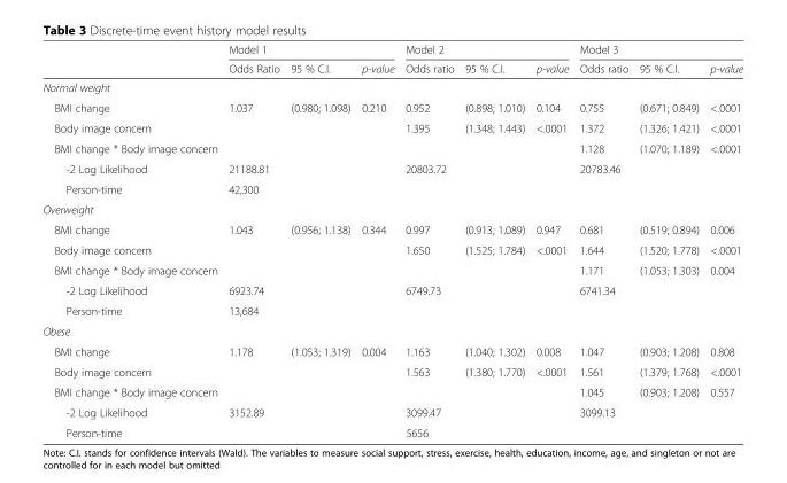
<table><thead><tr><td rowspan="2"></td><td colspan="3">Model 1</td><td colspan="3">Model 2</td><td colspan="3">Model 3</td></tr><tr><td>Odds Ratio</td><td>95 % C.I.</td><td>p-value</td><td>Odds ratio</td><td>95 % C.I.</td><td>p-value</td><td>Odds ratio</td><td>95 % C.I.</td><td>p-value</td></tr></thead><tbody><tr><td colspan="10">Normal weight</td></tr><tr><td>BMI change</td><td>1.037</td><td>(0.980; 1.098)</td><td>0.210</td><td>0.952</td><td>(0.898; 1.010)</td><td>0.104</td><td>0.755</td><td>(0.671; 0.849)</td><td>&lt;.0001</td></tr><tr><td>Body image concern</td><td></td><td></td><td></td><td>1.395</td><td>(1.348; 1.443)</td><td>&lt;.0001</td><td>1.372</td><td>(1.326; 1.421)</td><td>&lt;.0001</td></tr><tr><td>BMI change * Body image concern</td><td></td><td></td><td></td><td></td><td></td><td></td><td>1.128</td><td>(1.070; 1.189)</td><td>&lt;.0001</td></tr><tr><td>-2 Log Likelihood</td><td colspan="3">21188.81</td><td colspan="3">20803.72</td><td colspan="3">20783.46</td></tr><tr><td>Person-time</td><td colspan="9">42,300</td></tr><tr><td colspan="10">Overweight</td></tr><tr><td>BMI change</td><td>1.043</td><td>(0.956; 1.138)</td><td>0.344</td><td>0.997</td><td>(0.913; 1.089)</td><td>0.947</td><td>0.681</td><td>(0.519; 0.894)</td><td>0.006</td></tr><tr><td>Body image concern</td><td></td><td></td><td></td><td>1.650</td><td>(1.525; 1.784)</td><td>&lt;.0001</td><td>1.644</td><td>(1.520; 1.778)</td><td>&lt;.0001</td></tr><tr><td>BMI change * Body image concern</td><td></td><td></td><td></td><td></td><td></td><td></td><td>1.171</td><td>(1.053; 1.303)</td><td>0.004</td></tr><tr><td>-2 Log Likelihood</td><td colspan="3">6923.74</td><td colspan="3">6749.73</td><td colspan="3">6741.34</td></tr><tr><td>Person-time</td><td colspan="9">13,684</td></tr><tr><td colspan="10">Obese</td></tr><tr><td>BMI change</td><td>1.178</td><td>(1.053; 1.319)</td><td>0.004</td><td>1.163</td><td>(1.040; 1.302)</td><td>0.008</td><td>1.047</td><td>(0.903; 1.208)</td><td>0.808</td></tr><tr><td>Body image concern</td><td></td><td></td><td></td><td>1.563</td><td>(1.380; 1.770)</td><td>&lt;.0001</td><td>1.561</td><td>(1.379; 1.768)</td><td>&lt;.0001</td></tr><tr><td>BMI change * Body image concern</td><td></td><td></td><td></td><td></td><td></td><td></td><td>1.045</td><td>(0.903; 1.208)</td><td>0.557</td></tr><tr><td>-2 Log Likelihood</td><td colspan="3">3152.89</td><td colspan="3">3099.47</td><td colspan="3">3099.13</td></tr><tr><td>Person-time</td><td colspan="9">5656</td></tr></tbody></table>